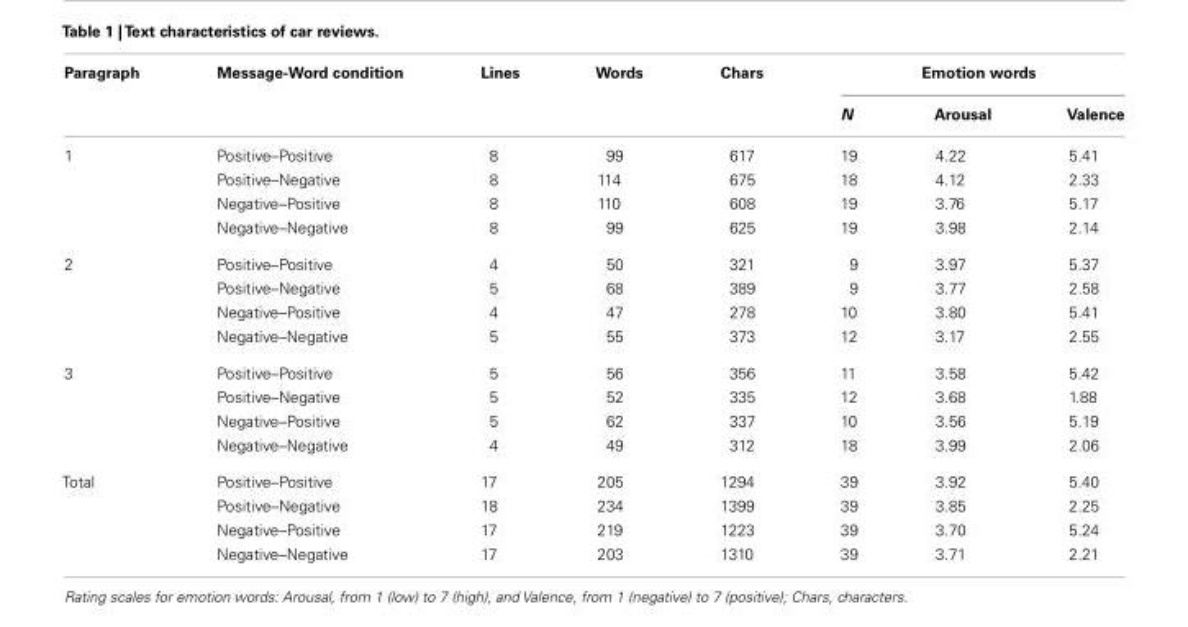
<table><thead><tr><td rowspan="2">Paragraph</td><td rowspan="2">Message-Word condition</td><td rowspan="2">Lines</td><td rowspan="2">Words</td><td rowspan="2">Chars</td><td colspan="3">Emotion words</td></tr><tr><td>N</td><td>Arousal</td><td>Valence</td></tr></thead><tbody><tr><td rowspan="4">1</td><td>Positive–Positive</td><td>8</td><td>99</td><td>617</td><td>19</td><td>4.22</td><td>5.41</td></tr><tr><td>Positive–Negative</td><td>8</td><td>114</td><td>675</td><td>18</td><td>4.12</td><td>2.33</td></tr><tr><td>Negative–Positive</td><td>8</td><td>110</td><td>608</td><td>19</td><td>3.76</td><td>5.17</td></tr><tr><td>Negative–Negative</td><td>8</td><td>99</td><td>625</td><td>19</td><td>3.98</td><td>2.14</td></tr><tr><td rowspan="4">2</td><td>Positive–Positive</td><td>4</td><td>50</td><td>321</td><td>9</td><td>3.97</td><td>5.37</td></tr><tr><td>Positive–Negative</td><td>5</td><td>68</td><td>389</td><td>9</td><td>3.77</td><td>2.58</td></tr><tr><td>Negative–Positive</td><td>4</td><td>47</td><td>278</td><td>10</td><td>3.80</td><td>5.41</td></tr><tr><td>Negative–Negative</td><td>5</td><td>55</td><td>373</td><td>12</td><td>3.17</td><td>2.55</td></tr><tr><td rowspan="4">3</td><td>Positive–Positive</td><td>5</td><td>56</td><td>356</td><td>11</td><td>3.58</td><td>5.42</td></tr><tr><td>Positive–Negative</td><td>5</td><td>52</td><td>335</td><td>12</td><td>3.68</td><td>1.88</td></tr><tr><td>Negative–Positive</td><td>5</td><td>62</td><td>337</td><td>10</td><td>3.56</td><td>5.19</td></tr><tr><td>Negative–Negative</td><td>4</td><td>49</td><td>312</td><td>18</td><td>3.99</td><td>2.06</td></tr><tr><td rowspan="4">Total</td><td>Positive–Positive</td><td>17</td><td>205</td><td>1294</td><td>39</td><td>3.92</td><td>5.40</td></tr><tr><td>Positive–Negative</td><td>18</td><td>234</td><td>1399</td><td>39</td><td>3.85</td><td>2.25</td></tr><tr><td>Negative–Positive</td><td>17</td><td>219</td><td>1223</td><td>39</td><td>3.70</td><td>5.24</td></tr><tr><td>Negative–Negative</td><td>17</td><td>203</td><td>1310</td><td>39</td><td>3.71</td><td>2.21</td></tr></tbody></table>